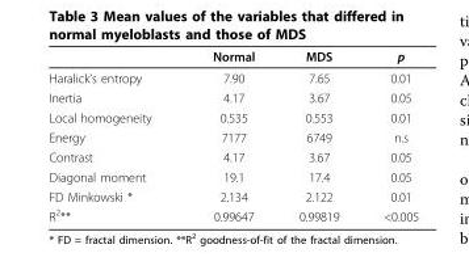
<table><thead><tr><td></td><td>Normal</td><td>MDS</td><td>p</td></tr></thead><tbody><tr><td>Haralick’s entropy</td><td>7.90</td><td>7.65</td><td>0.01</td></tr><tr><td>Inertia</td><td>4.17</td><td>3.67</td><td>0.05</td></tr><tr><td>Local homogeneity</td><td>0.535</td><td>0.553</td><td>0.01</td></tr><tr><td>Energy</td><td>7177</td><td>6749</td><td>n.s</td></tr><tr><td>Contrast</td><td>4.17</td><td>3.67</td><td>0.05</td></tr><tr><td>Diagonal moment</td><td>19.1</td><td>17.4</td><td>0.05</td></tr><tr><td>FD Minkowski *</td><td>2.134</td><td>2.122</td><td>0.01</td></tr><tr><td>R<sup>2</sup>**</td><td>0.99647</td><td>0.99819</td><td>&lt;0.005</td></tr></tbody></table>